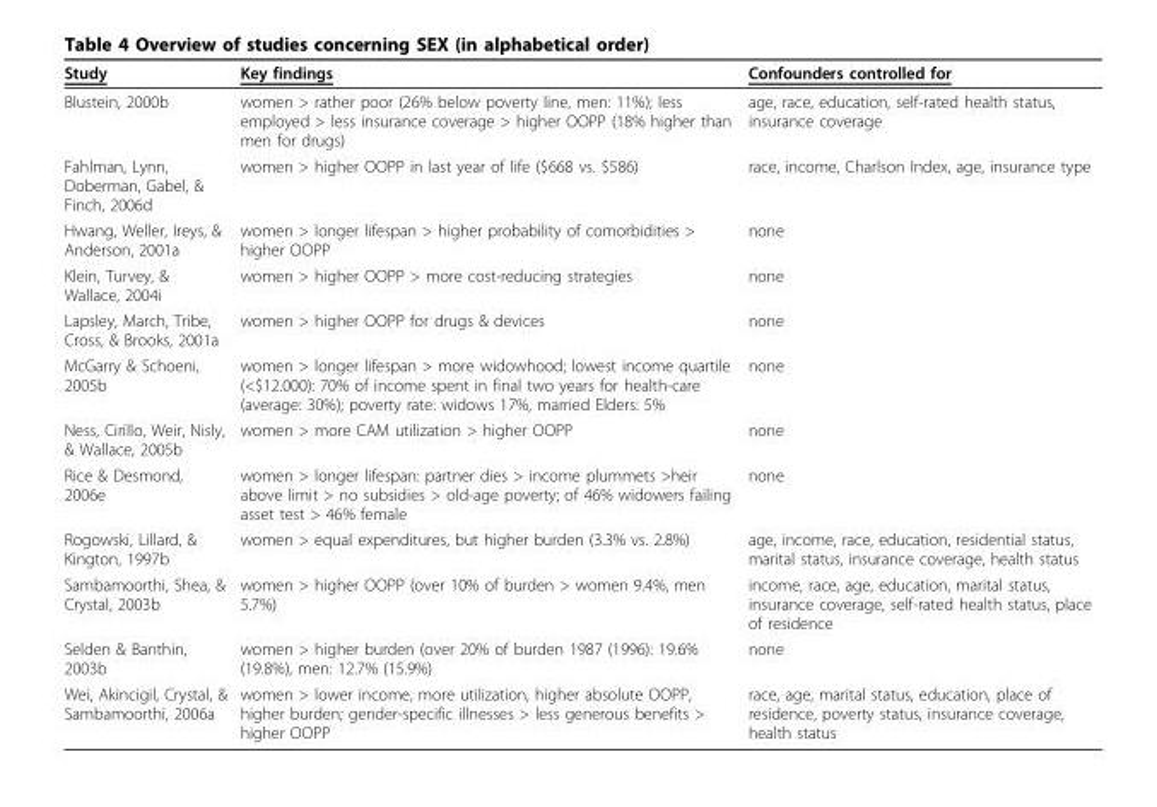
<table><thead><tr><td>Study</td><td>Key findings</td><td>Confounders controlled for</td></tr></thead><tbody><tr><td>Blustein, 2000b</td><td>women &gt; rather poor (26% below poverty line, men: 11%); less employed &gt; less insurance coverage &gt; higher OOPP (18% higher than men for drugs)</td><td>age, race, education, self-rated health status, insurance coverage</td></tr><tr><td>Fahlman, Lynn, Doberman, Gabel, &amp; Finch, 2006d</td><td>women &gt; higher OOPP in last year of life ($668 vs. $586)</td><td>race, income, Charlson Index, age, insurance type</td></tr><tr><td>Hwang, Weller, Ireys, &amp; Anderson, 2001a</td><td>women &gt; longer lifespan &gt; higher probability of comorbidities &gt; higher OOPP</td><td>none</td></tr><tr><td>Klein, Turvey, &amp; Wallace, 2004i</td><td>women &gt; higher OOPP &gt; more cost-reducing strategies</td><td>none</td></tr><tr><td>Lapsley, March, Tribe, Cross, &amp; Brooks, 2001a</td><td>women &gt; higher OOPP for drugs &amp; devices</td><td>none</td></tr><tr><td>McGarry &amp; Schoeni, 2005b</td><td>women &gt; longer lifespan &gt; more widowhood; lowest income quartile (&lt;$12.000): 70% of income spent in final two years for health-care (average: 30%); poverty rate: widows 17%, married Elders: 5%</td><td>none</td></tr><tr><td>Ness, Cirillo, Weir, Nisly, &amp; Wallace, 2005b</td><td>women &gt; more CAM utilization &gt; higher OOPP</td><td>none</td></tr><tr><td>Rice &amp; Desmond, 2006e</td><td>women &gt; longer lifespan: partner dies &gt; income plummets &gt;heir above limit &gt; no subsidies &gt; old-age poverty; of 46% widowers failing asset test &gt; 46% female</td><td>none</td></tr><tr><td>Rogowski, Lillard, &amp; Kington, 1997b</td><td>women &gt; equal expenditures, but higher burden (3.3% vs. 2.8%)</td><td>age, income, race, education, residential status, marital status, insurance coverage, health status</td></tr><tr><td>Sambamoorthi, Shea, &amp; Crystal, 2003b</td><td>women &gt; higher OOPP (over 10% of burden &gt; women 9.4%, men 5.7%)</td><td>income, race, age, education, marital status, insurance coverage, self-rated health status, place of residence</td></tr><tr><td>Selden &amp; Banthin, 2003b</td><td>women &gt; higher burden (over 20% of burden 1987 (1996): 19.6% (19.8%), men: 12.7% (15.9%)</td><td>none</td></tr><tr><td>Wei, Akincigil, Crystal, &amp; Sambamoorthi, 2006a</td><td>women &gt; lower income, more utilization, higher absolute OOPP, higher burden; gender-specific illnesses &gt; less generous benefits &gt; higher OOPP</td><td>race, age, marital status, education, place of residence, poverty status, insurance coverage, health status</td></tr></tbody></table>